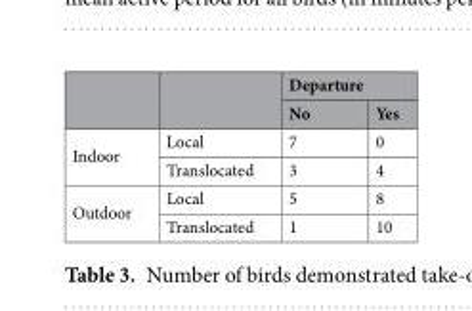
<table><thead><tr><td rowspan="2"></td><td rowspan="2"></td><td colspan="2">Departure</td></tr><tr><td>No</td><td>Yes</td></tr></thead><tbody><tr><td rowspan="2">Indoor</td><td>Local</td><td>7</td><td>0</td></tr><tr><td>Translocated</td><td>3</td><td>4</td></tr><tr><td rowspan="2">Outdoor</td><td>Local</td><td>5</td><td>8</td></tr><tr><td>Translocated</td><td>1</td><td>10</td></tr></tbody></table>